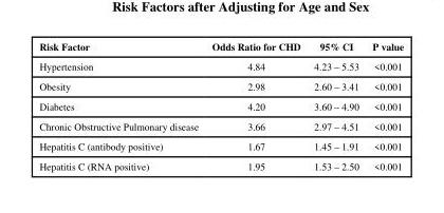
<table><thead><tr><td>Risk Factor</td><td>Odds Ratio for CHD</td><td>95% CI</td><td>P value</td></tr></thead><tbody><tr><td>Hypertension</td><td>4.84</td><td>4.23 – 5.53</td><td>&lt;0.001</td></tr><tr><td>Obesity</td><td>2.98</td><td>2.60 – 3.41</td><td>&lt;0.001</td></tr><tr><td>Diabetes</td><td>4.20</td><td>3.60 – 4.90</td><td>&lt;0.001</td></tr><tr><td>Chronic Obstructive Pulmonary disease</td><td>3.66</td><td>2.97 – 4.51</td><td>&lt;0.001</td></tr><tr><td>Hepatitis C (antibody positive)</td><td>1.67</td><td>1.45 – 1.91</td><td>&lt;0.001</td></tr><tr><td>Hepatitis C (RNA positive)</td><td>1.95</td><td>1.53 – 2.50</td><td>&lt;0.001</td></tr></tbody></table>